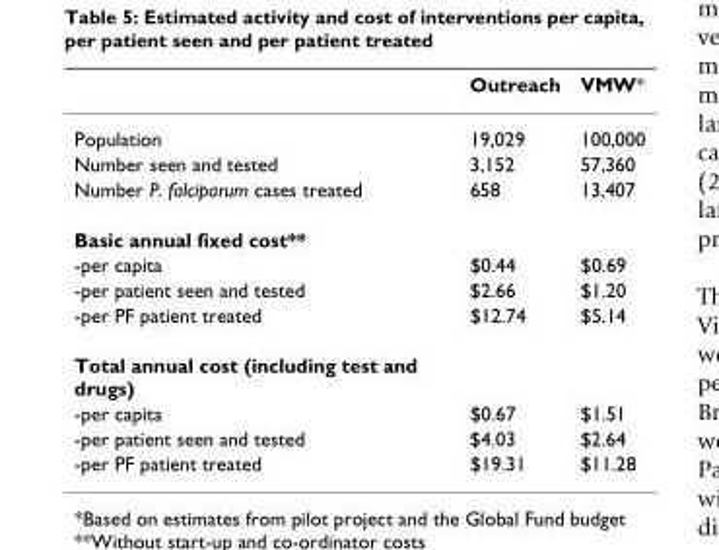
<table><thead><tr><td></td><td>Outreach</td><td>VMW*</td></tr></thead><tbody><tr><td>Population</td><td>19,029</td><td>100,000</td></tr><tr><td>Number seen and tested</td><td>3,152</td><td>57,360</td></tr><tr><td>Number P. falciparum cases treated</td><td>658</td><td>13,407</td></tr><tr><td colspan="3">Basic annual fixed cost**</td></tr><tr><td>-per capita</td><td>$0.44</td><td>$0.69</td></tr><tr><td>-per patient seen and tested</td><td>$2.66</td><td>$1.20</td></tr><tr><td>-per PF patient treated</td><td>$12.74</td><td>$5.14</td></tr><tr><td colspan="3">Total annual cost (including test and drugs)</td></tr><tr><td>-per capita</td><td>$0.67</td><td>$1.51</td></tr><tr><td>-per patient seen and tested</td><td>$4.03</td><td>$2.64</td></tr><tr><td>-per PF patient treated</td><td>$19.31</td><td>$11.28</td></tr></tbody></table>